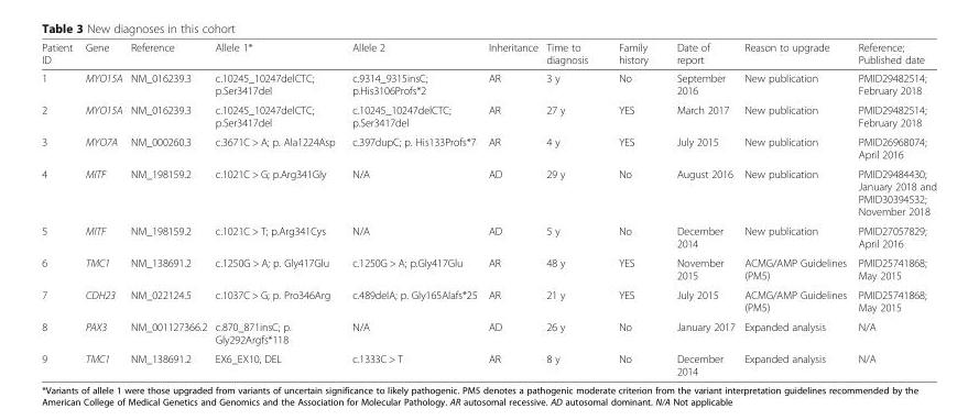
<table><thead><tr><td>Patient ID</td><td>Gene</td><td>Reference</td><td>Allele 1*</td><td>Allele 2</td><td>Inheritance</td><td>Time to diagnosis</td><td>Family history</td><td>Date of report</td><td>Reason to upgrade</td><td>Reference; Published date</td></tr></thead><tbody><tr><td>1</td><td>MYO15A</td><td>NM_016239.3</td><td>c.10245_10247delCTC; p.Ser3417del</td><td>c.9314_9315insC; p.His3106Profs*2</td><td>AR</td><td>3 y</td><td>No</td><td>September 2016</td><td>New publication</td><td>PMID29482514; February 2018</td></tr><tr><td>2</td><td>MYO15A</td><td>NM_016239.3</td><td>c.10245_10247delCTC; p.Ser3417del</td><td>c.10245_10247delCTC; p.Ser3417del</td><td>AR</td><td>27 y</td><td>YES</td><td>March 2017</td><td>New publication</td><td>PMID29482514; February 2018</td></tr><tr><td>3</td><td>MYO7A</td><td>NM_000260.3</td><td>c.3671C &gt; A; p. Ala1224Asp</td><td>c.397dupC; p. His133Profs*7</td><td>AR</td><td>4 y</td><td>YES</td><td>July 2015</td><td>New publication</td><td>PMID26968074; April 2016</td></tr><tr><td>4</td><td>MITF</td><td>NM_198159.2</td><td>c.1021C &gt; G; p.Arg341Gly</td><td>N/A</td><td>AD</td><td>29 y</td><td>No</td><td>August 2016</td><td>New publication</td><td>PMID29484430; January 2018 and PMID30394532; November 2018</td></tr><tr><td>5</td><td>MITF</td><td>NM_198159.2</td><td>c.1021C &gt; T; p.Arg341Cys</td><td>N/A</td><td>AD</td><td>5 y</td><td>No</td><td>December 2014</td><td>New publication</td><td>PMID27057829; April 2016</td></tr><tr><td>6</td><td>TMC1</td><td>NM_138691.2</td><td>c.1250G &gt; A; p. Gly417Glu</td><td>c.1250G &gt; A; p.Gly417Glu</td><td>AR</td><td>48 y</td><td>YES</td><td>November 2015</td><td>ACMG/AMP Guidelines (PM5)</td><td>PMID25741868; May 2015</td></tr><tr><td>7</td><td>CDH23</td><td>NM_022124.5</td><td>c.1037C &gt; G; p. Pro346Arg</td><td>c.489delA; p. Gly165Alafs*25</td><td>AR</td><td>21 y</td><td>YES</td><td>July 2015</td><td>ACMG/AMP Guidelines (PM5)</td><td>PMID25741868; May 2015</td></tr><tr><td>8</td><td>PAX3</td><td>NM_001127366.2</td><td>c.870_871insC; p. Gly292Argfs*118</td><td>N/A</td><td>AD</td><td>26 y</td><td>No</td><td>January 2017</td><td>Expanded analysis</td><td>N/A</td></tr><tr><td>9</td><td>TMC1</td><td>NM_138691.2</td><td>EX6_EX10, DEL</td><td>c.1333C &gt; T</td><td>AR</td><td>8 y</td><td>No</td><td>December 2014</td><td>Expanded analysis</td><td>N/A</td></tr></tbody></table>